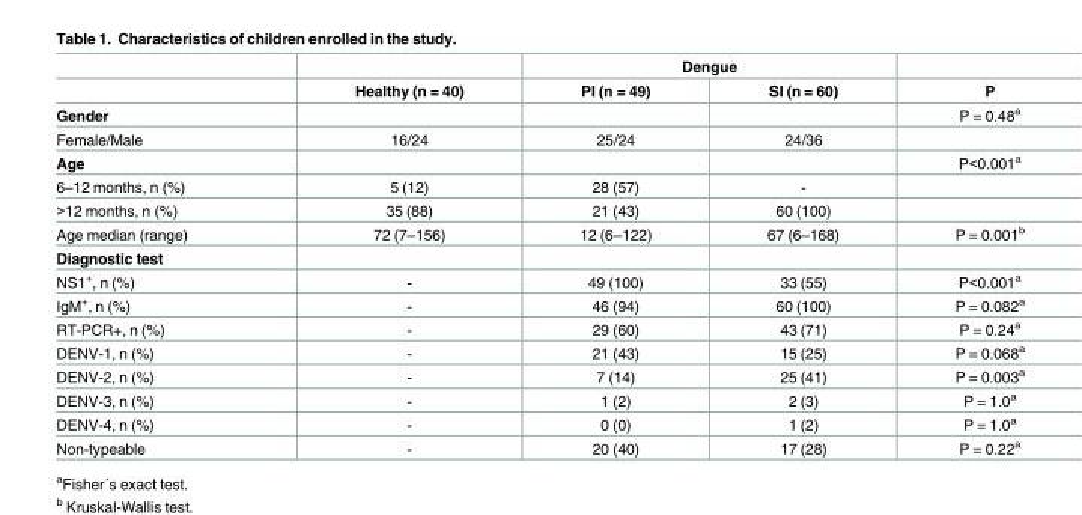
<table><thead><tr><td rowspan="2"></td><td rowspan="2">Healthy (n = 40)</td><td colspan="2">Dengue</td><td rowspan="2">P</td></tr><tr><td>PI (n = 49)</td><td>SI (n = 60)</td></tr></thead><tbody><tr><td>Gender</td><td></td><td></td><td></td><td>P = 0.48<sup>a</sup></td></tr><tr><td>Female/Male</td><td>16/24</td><td>25/24</td><td>24/36</td><td></td></tr><tr><td>Age</td><td></td><td></td><td></td><td>P&lt;0.001<sup>a</sup></td></tr><tr><td>6–12 months, n (%)</td><td>5 (12)</td><td>28 (57)</td><td>-</td><td></td></tr><tr><td>&gt;12 months, n (%)</td><td>35 (88)</td><td>21 (43)</td><td>60 (100)</td><td></td></tr><tr><td>Age median (range)</td><td>72 (7–156)</td><td>12 (6–122)</td><td>67 (6–168)</td><td>P = 0.001<sup>b</sup></td></tr><tr><td colspan="5">Diagnostic test</td></tr><tr><td>NS1<sup>+</sup>, n (%)</td><td>-</td><td>49 (100)</td><td>33 (55)</td><td>P&lt;0.001<sup>a</sup></td></tr><tr><td>IgM<sup>+</sup>, n (%)</td><td>-</td><td>46 (94)</td><td>60 (100)</td><td>P = 0.082<sup>a</sup></td></tr><tr><td>RT-PCR+, n (%)</td><td>-</td><td>29 (60)</td><td>43 (71)</td><td>P = 0.24<sup>a</sup></td></tr><tr><td>DENV-1, n (%)</td><td>-</td><td>21 (43)</td><td>15 (25)</td><td>P = 0.068<sup>a</sup></td></tr><tr><td>DENV-2, n (%)</td><td>-</td><td>7 (14)</td><td>25 (41)</td><td>P = 0.003<sup>a</sup></td></tr><tr><td>DENV-3, n (%)</td><td>-</td><td>1 (2)</td><td>2 (3)</td><td>P = 1.0<sup>a</sup></td></tr><tr><td>DENV-4, n (%)</td><td>-</td><td>0 (0)</td><td>1 (2)</td><td>P = 1.0<sup>a</sup></td></tr><tr><td>Non-typeable</td><td>-</td><td>20 (40)</td><td>17 (28)</td><td>P = 0.22<sup>a</sup></td></tr></tbody></table>